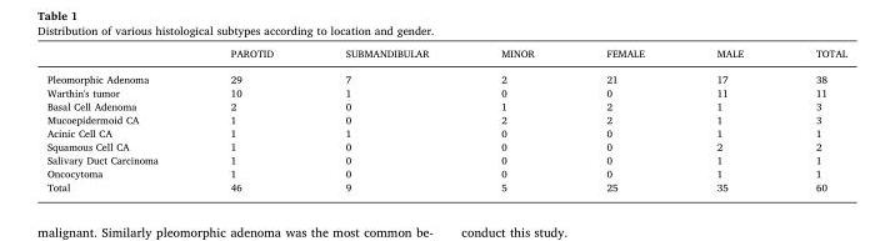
<table><thead><tr><td></td><td>PAROTID</td><td>SUBMANDIBULAR</td><td>MINOR</td><td>FEMALE</td><td>MALE</td><td>TOTAL</td></tr></thead><tbody><tr><td>Pleomorphic Adenoma</td><td>29</td><td>7</td><td>2</td><td>21</td><td>17</td><td>38</td></tr><tr><td>Warthin&#x27;s tumor</td><td>10</td><td>1</td><td>0</td><td>0</td><td>11</td><td>11</td></tr><tr><td>Basal Cell Adenoma</td><td>2</td><td>0</td><td>1</td><td>2</td><td>1</td><td>3</td></tr><tr><td>Mucoepidermoid CA</td><td>1</td><td>0</td><td>2</td><td>2</td><td>1</td><td>3</td></tr><tr><td>Acinic Cell CA</td><td>1</td><td>1</td><td>0</td><td>0</td><td>1</td><td>1</td></tr><tr><td>Squamous Cell CA</td><td>1</td><td>0</td><td>0</td><td>0</td><td>2</td><td>2</td></tr><tr><td>Salivary Duct Carcinoma</td><td>1</td><td>0</td><td>0</td><td>0</td><td>1</td><td>1</td></tr><tr><td>Oncocytoma</td><td>1</td><td>0</td><td>0</td><td>0</td><td>1</td><td>1</td></tr><tr><td>Total</td><td>46</td><td>9</td><td>5</td><td>25</td><td>35</td><td>60</td></tr></tbody></table>